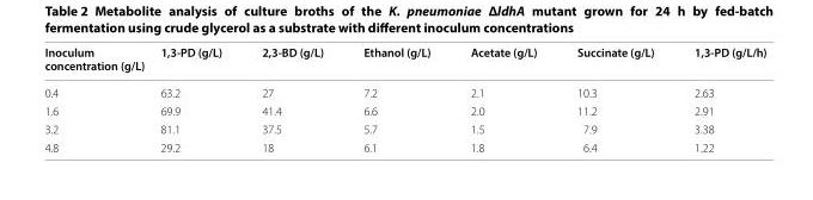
<table><thead><tr><td>Inoculum concentration (g/L)</td><td>1,3‑PD (g/L)</td><td>2,3‑BD (g/L)</td><td>Ethanol (g/L)</td><td>Acetate (g/L)</td><td>Succinate (g/L)</td><td>1,3‑PD (g/L/h)</td></tr></thead><tbody><tr><td>0.4</td><td>63.2</td><td>27</td><td>7.2</td><td>2.1</td><td>10.3</td><td>2.63</td></tr><tr><td>1.6</td><td>69.9</td><td>41.4</td><td>6.6</td><td>2.0</td><td>11.2</td><td>2.91</td></tr><tr><td>3.2</td><td>81.1</td><td>37.5</td><td>5.7</td><td>1.5</td><td>7.9</td><td>3.38</td></tr><tr><td>4.8</td><td>29.2</td><td>18</td><td>6.1</td><td>1.8</td><td>6.4</td><td>1.22</td></tr></tbody></table>